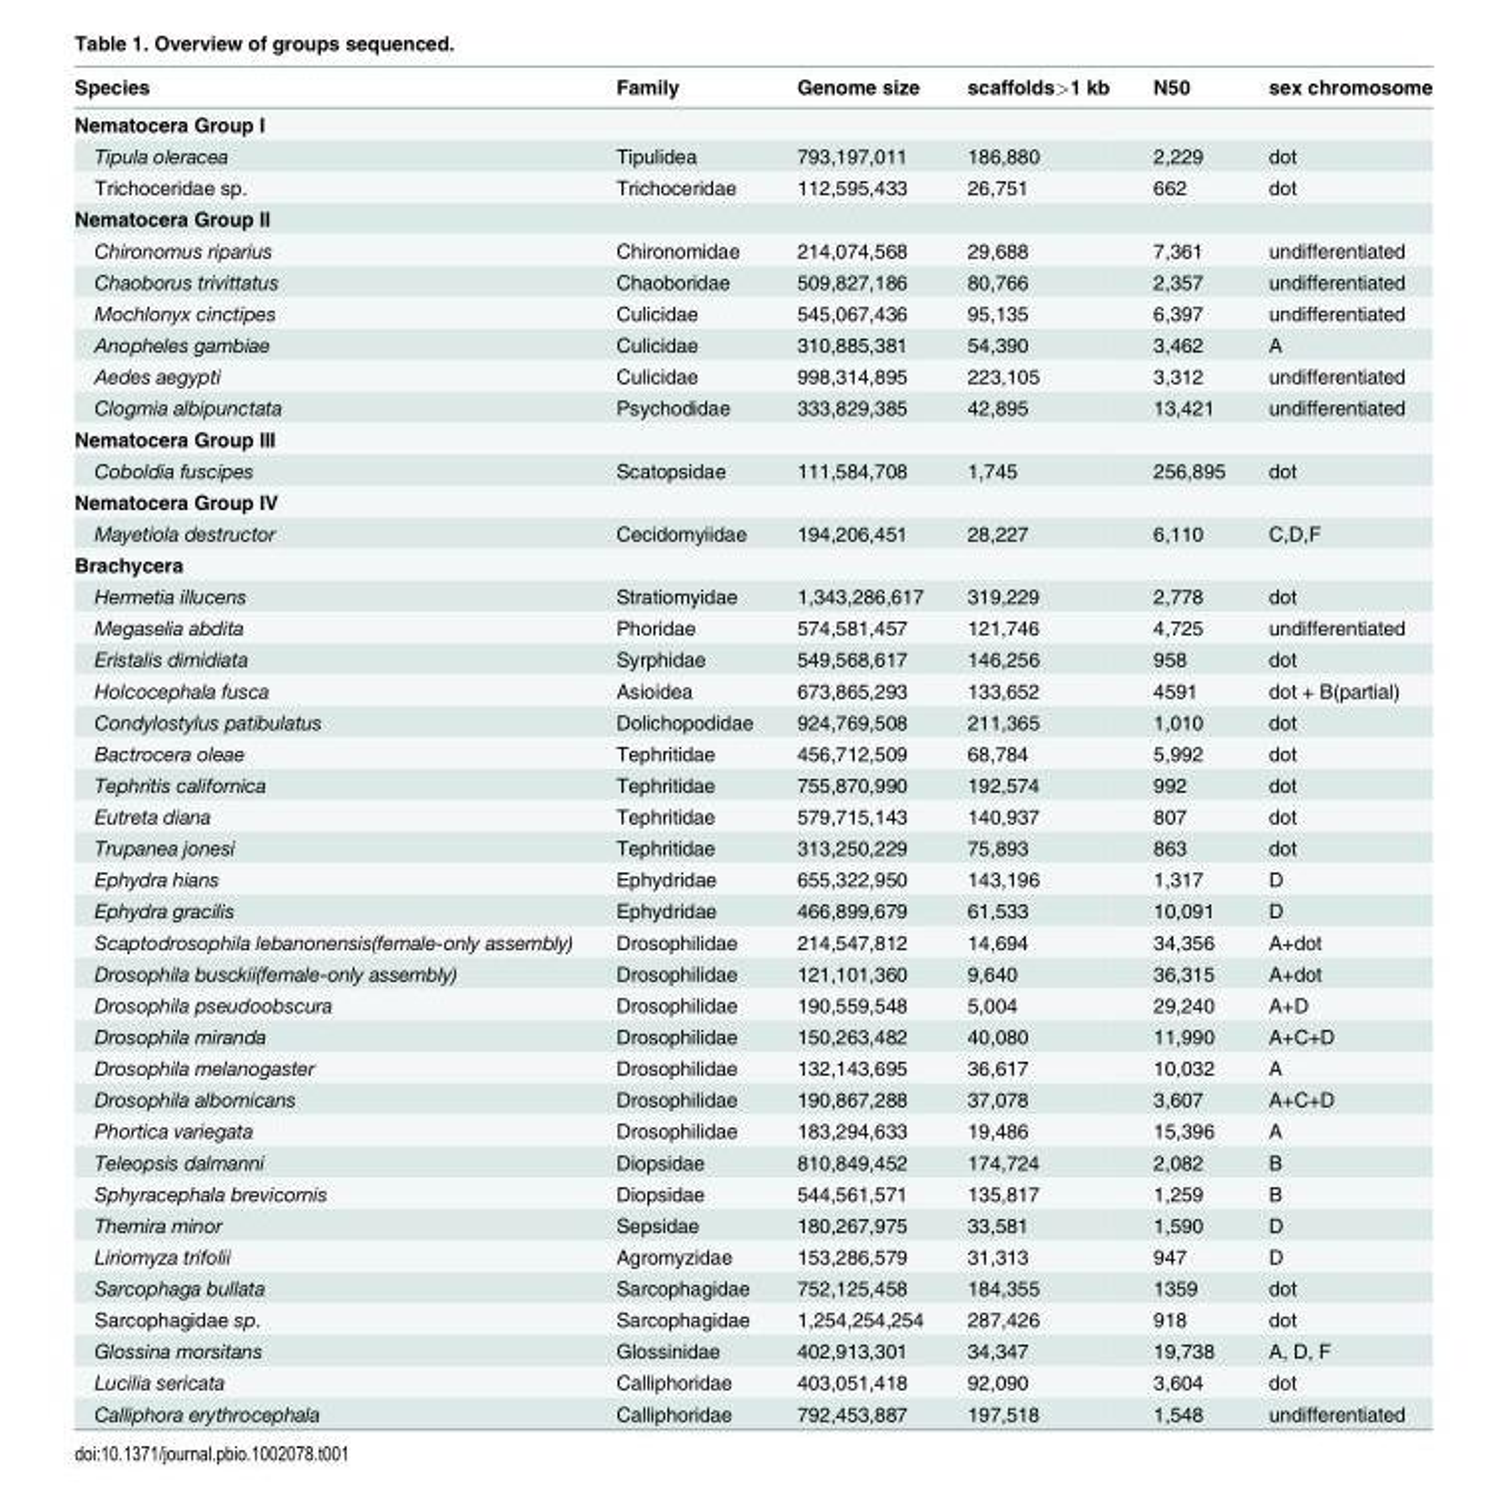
<table><thead><tr><td>Species</td><td>Family</td><td>Genome size</td><td>scaffolds&gt;1 kb</td><td>N50</td><td>sex chromosome</td></tr></thead><tbody><tr><td colspan="6">Nematocera Group I</td></tr><tr><td>Tipula oleracea</td><td>Tipulidea</td><td>793,197,011</td><td>186,880</td><td>2,229</td><td>dot</td></tr><tr><td>Trichoceridae sp.</td><td>Trichoceridae</td><td>112,595,433</td><td>26,751</td><td>662</td><td>dot</td></tr><tr><td colspan="6">Nematocera Group II</td></tr><tr><td>Chironomus riparius</td><td>Chironomidae</td><td>214,074,568</td><td>29,688</td><td>7,361</td><td>undifferentiated</td></tr><tr><td>Chaoborus trivittatus</td><td>Chaoboridae</td><td>509,827,186</td><td>80,766</td><td>2,357</td><td>undifferentiated</td></tr><tr><td>Mochlonyx cinctipes</td><td>Culicidae</td><td>545,067,436</td><td>95,135</td><td>6,397</td><td>undifferentiated</td></tr><tr><td>Anopheles gambiae</td><td>Culicidae</td><td>310,885,381</td><td>54,390</td><td>3,462</td><td>A</td></tr><tr><td>Aedes aegypti</td><td>Culicidae</td><td>998,314,895</td><td>223,105</td><td>3,312</td><td>undifferentiated</td></tr><tr><td>Clogmia albipunctata</td><td>Psychodidae</td><td>333,829,385</td><td>42,895</td><td>13,421</td><td>undifferentiated</td></tr><tr><td colspan="6">Nematocera Group III</td></tr><tr><td>Coboldia fuscipes</td><td>Scatopsidae</td><td>111,584,708</td><td>1,745</td><td>256,895</td><td>dot</td></tr><tr><td colspan="6">Nematocera Group IV</td></tr><tr><td>Mayetiola destructor</td><td>Cecidomyiidae</td><td>194,206,451</td><td>28,227</td><td>6,110</td><td>C,D,F</td></tr><tr><td colspan="6">Brachycera</td></tr><tr><td>Hermetia illucens</td><td>Stratiomyidae</td><td>1,343,286,617</td><td>319,229</td><td>2,778</td><td>dot</td></tr><tr><td>Megaselia abdita</td><td>Phoridae</td><td>574,581,457</td><td>121,746</td><td>4,725</td><td>undifferentiated</td></tr><tr><td>Eristalis dimidiata</td><td>Syrphidae</td><td>549,568,617</td><td>146,256</td><td>958</td><td>dot</td></tr><tr><td>Holcocephala fusca</td><td>Asioidea</td><td>673,865,293</td><td>133,652</td><td>4591</td><td>dot + B(partial)</td></tr><tr><td>Condylostylus patibulatus</td><td>Dolichopodidae</td><td>924,769,508</td><td>211,365</td><td>1,010</td><td>dot</td></tr><tr><td>Bactrocera oleae</td><td>Tephritidae</td><td>456,712,509</td><td>68,784</td><td>5,992</td><td>dot</td></tr><tr><td>Tephritis californica</td><td>Tephritidae</td><td>755,870,990</td><td>192,574</td><td>992</td><td>dot</td></tr><tr><td>Eutreta diana</td><td>Tephritidae</td><td>579,715,143</td><td>140,937</td><td>807</td><td>dot</td></tr><tr><td>Trupanea jonesi</td><td>Tephritidae</td><td>313,250,229</td><td>75,893</td><td>863</td><td>dot</td></tr><tr><td>Ephydra hians</td><td>Ephydridae</td><td>655,322,950</td><td>143,196</td><td>1,317</td><td>D</td></tr><tr><td>Ephydra gracilis</td><td>Ephydridae</td><td>466,899,679</td><td>61,533</td><td>10,091</td><td>D</td></tr><tr><td>Scaptodrosophila lebanonensis(female-only assembly)</td><td>Drosophilidae</td><td>214,547,812</td><td>14,694</td><td>34,356</td><td>A+dot</td></tr><tr><td>Drosophila busckii(female-only assembly)</td><td>Drosophilidae</td><td>121,101,360</td><td>9,640</td><td>36,315</td><td>A+dot</td></tr><tr><td>Drosophila pseudoobscura</td><td>Drosophilidae</td><td>190,559,548</td><td>5,004</td><td>29,240</td><td>A+D</td></tr><tr><td>Drosophila miranda</td><td>Drosophilidae</td><td>150,263,482</td><td>40,080</td><td>11,990</td><td>A+C+D</td></tr><tr><td>Drosophila melanogaster</td><td>Drosophilidae</td><td>132,143,695</td><td>36,617</td><td>10,032</td><td>A</td></tr><tr><td>Drosophila albomicans</td><td>Drosophilidae</td><td>190,867,288</td><td>37,078</td><td>3,607</td><td>A+C+D</td></tr><tr><td>Phortica variegata</td><td>Drosophilidae</td><td>183,294,633</td><td>19,486</td><td>15,396</td><td>A</td></tr><tr><td>Teleopsis dalmanni</td><td>Diopsidae</td><td>810,849,452</td><td>174,724</td><td>2,082</td><td>B</td></tr><tr><td>Sphyracephala brevicornis</td><td>Diopsidae</td><td>544,561,571</td><td>135,817</td><td>1,259</td><td>B</td></tr><tr><td>Themira minor</td><td>Sepsidae</td><td>180,267,975</td><td>33,581</td><td>1,590</td><td>D</td></tr><tr><td>Liriomyza trifolii</td><td>Agromyzidae</td><td>153,286,579</td><td>31,313</td><td>947</td><td>D</td></tr><tr><td>Sarcophaga bullata</td><td>Sarcophagidae</td><td>752,125,458</td><td>184,355</td><td>1359</td><td>dot</td></tr><tr><td>Sarcophagidae sp.</td><td>Sarcophagidae</td><td>1,254,254,254</td><td>287,426</td><td>918</td><td>dot</td></tr><tr><td>Glossina morsitans</td><td>Glossinidae</td><td>402,913,301</td><td>34,347</td><td>19,738</td><td>A, D, F</td></tr><tr><td>Lucilia sericata</td><td>Calliphoridae</td><td>403,051,418</td><td>92,090</td><td>3,604</td><td>dot</td></tr><tr><td>Calliphora erythrocephala</td><td>Calliphoridae</td><td>792,453,887</td><td>197,518</td><td>1,548</td><td>undifferentiated</td></tr></tbody></table>